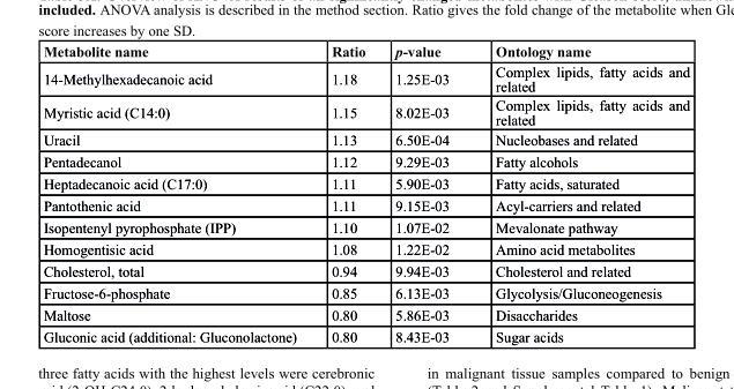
<table><thead><tr><td>Metabolite name</td><td>ratio</td><td>p-value</td><td>ontology name</td></tr></thead><tbody><tr><td>14-Methylhexadecanoic acid</td><td>1.18</td><td>1.25E-03</td><td>Complex lipids, fatty acids and related</td></tr><tr><td>Myristic acid (C14:0)</td><td>1.15</td><td>8.02E-03</td><td>Complex lipids, fatty acids and related</td></tr><tr><td>Uracil</td><td>1.13</td><td>6.50E-04</td><td>Nucleobases and related</td></tr><tr><td>Pentadecanol</td><td>1.12</td><td>9.29E-03</td><td>Fatty alcohols</td></tr><tr><td>Heptadecanoic acid (C17:0)</td><td>1.11</td><td>5.90E-03</td><td>Fatty acids, saturated</td></tr><tr><td>Pantothenic acid</td><td>1.11</td><td>9.15E-03</td><td>Acyl-carriers and related</td></tr><tr><td>Isopentenyl pyrophosphate (IPP)</td><td>1.10</td><td>1.07E-02</td><td>Mevalonate pathway</td></tr><tr><td>Homogentisic acid</td><td>1.08</td><td>1.22E-02</td><td>Amino acid metabolites</td></tr><tr><td>Cholesterol, total</td><td>0.94</td><td>9.94E-03</td><td>Cholesterol and related</td></tr><tr><td>Fructose-6-phosphate</td><td>0.85</td><td>6.13E-03</td><td>Glycolysis/Gluconeogenesis</td></tr><tr><td>Maltose</td><td>0.80</td><td>5.86E-03</td><td>Disaccharides</td></tr><tr><td>Gluconic acid (additional: Gluconolactone)</td><td>0.80</td><td>8.43E-03</td><td>Sugar acids</td></tr></tbody></table>